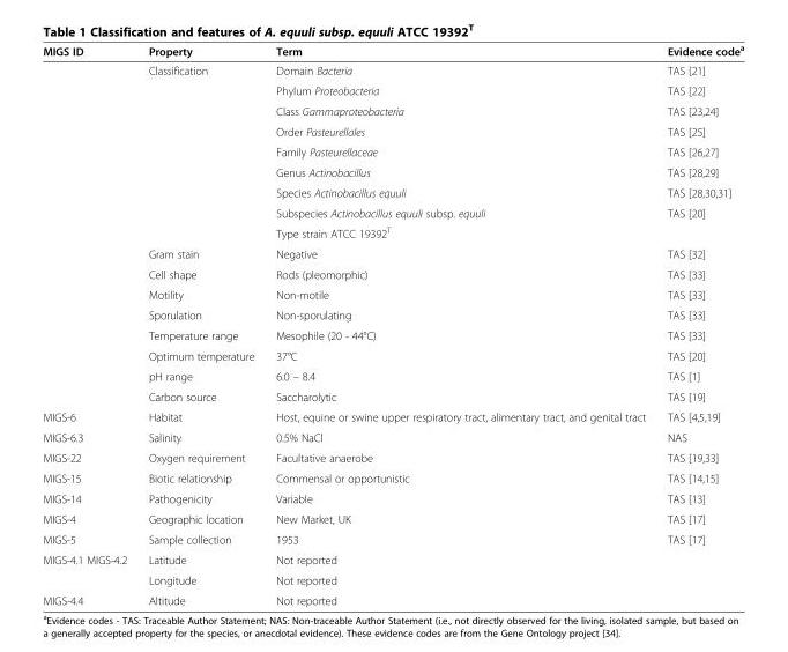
<table><thead><tr><td>MIGS ID</td><td>Property</td><td>Term</td><td>Evidence code<sup>a</sup></td></tr></thead><tbody><tr><td rowspan="9"></td><td rowspan="9">Classification</td><td>Domain Bacteria</td><td>TAS [21]</td></tr><tr><td>Phylum Proteobacteria</td><td>TAS [22]</td></tr><tr><td>Class Gammaproteobacteria</td><td>TAS [23,24]</td></tr><tr><td>Order Pasteurellales</td><td>TAS [25]</td></tr><tr><td>Family Pasteurellaceae</td><td>TAS [26,27]</td></tr><tr><td>Genus Actinobacillus</td><td>TAS [28,29]</td></tr><tr><td>Species Actinobacillus equuli</td><td>TAS [28,30,31]</td></tr><tr><td>Subspecies Actinobacillus equuli subsp. equuli</td><td>TAS [20]</td></tr><tr><td>Type strain ATCC 19392<sup>T</sup></td><td></td></tr><tr><td></td><td>Gram stain</td><td>Negative</td><td>TAS [32]</td></tr><tr><td></td><td>Cell shape</td><td>Rods (pleomorphic)</td><td>TAS [33]</td></tr><tr><td></td><td>Motility</td><td>Non-motile</td><td>TAS [33]</td></tr><tr><td></td><td>Sporulation</td><td>Non-sporulating</td><td>TAS [33]</td></tr><tr><td></td><td>Temperature range</td><td>Mesophile (20 - 44°C)</td><td>TAS [33]</td></tr><tr><td></td><td>Optimum temperature</td><td>37°C</td><td>TAS [20]</td></tr><tr><td></td><td>pH range</td><td>6.0 – 8.4</td><td>TAS [1]</td></tr><tr><td></td><td>Carbon source</td><td>Saccharolytic</td><td>TAS [19]</td></tr><tr><td>MIGS-6</td><td>Habitat</td><td>Host, equine or swine upper respiratory tract, alimentary tract, and genital tract</td><td>TAS [4,5,19]</td></tr><tr><td>MIGS-6.3</td><td>Salinity</td><td>0.5% NaCl</td><td>NAS</td></tr><tr><td>MIGS-22</td><td>Oxygen requirement</td><td>Facultative anaerobe</td><td>TAS [19,33]</td></tr><tr><td>MIGS-15</td><td>Biotic relationship</td><td>Commensal or opportunistic</td><td>TAS [14,15]</td></tr><tr><td>MIGS-14</td><td>Pathogenicity</td><td>Variable</td><td>TAS [13]</td></tr><tr><td>MIGS-4</td><td>Geographic location</td><td>New Market, UK</td><td>TAS [17]</td></tr><tr><td>MIGS-5</td><td>Sample collection</td><td>1953</td><td>TAS [17]</td></tr><tr><td rowspan="2">MIGS-4.1 MIGS-4.2</td><td>Latitude</td><td>Not reported</td><td rowspan="2"></td></tr><tr><td>Longitude</td><td>Not reported</td></tr><tr><td>MIGS-4.4</td><td>Altitude</td><td>Not reported</td><td></td></tr></tbody></table>